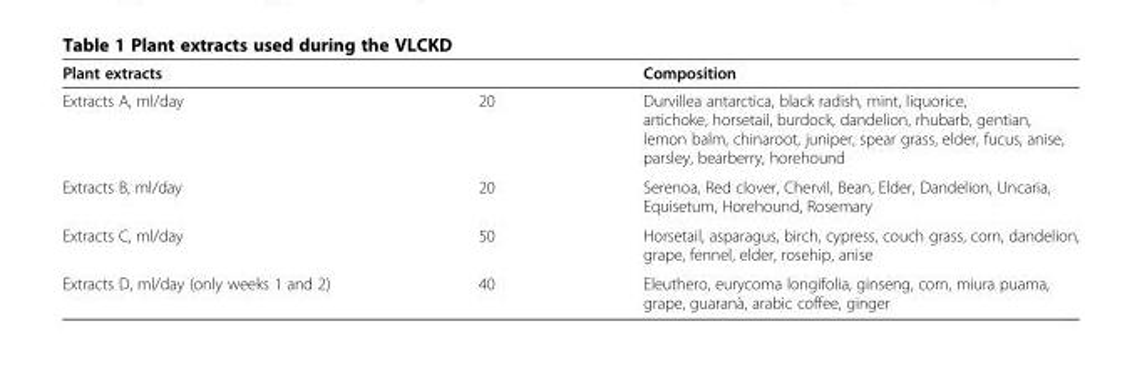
<table><thead><tr><td>Plant extracts</td><td></td><td>Composition</td></tr></thead><tbody><tr><td>Extracts A, ml/day</td><td>20</td><td>Durvillea antarctica, black radish, mint, liquorice, artichoke, horsetail, burdock, dandelion, rhubarb, gentian, lemon balm, chinaroot, juniper, spear grass, elder, fucus, anise, parsley, bearberry, horehound</td></tr><tr><td>Extracts B, ml/day</td><td>20</td><td>Serenoa, Red clover, Chervil, Bean, Elder, Dandelion, Uncaria, Equisetum, Horehound, Rosemary</td></tr><tr><td>Extracts C, ml/day</td><td>50</td><td>Horsetail, asparagus, birch, cypress, couch grass, corn, dandelion, grape, fennel, elder, rosehip, anise</td></tr><tr><td>Extracts D, ml/day (only weeks 1 and 2)</td><td>40</td><td>Eleuthero, eurycoma longifolia, ginseng, corn, miura puama, grape, guaranà, arabic coffee, ginger</td></tr></tbody></table>